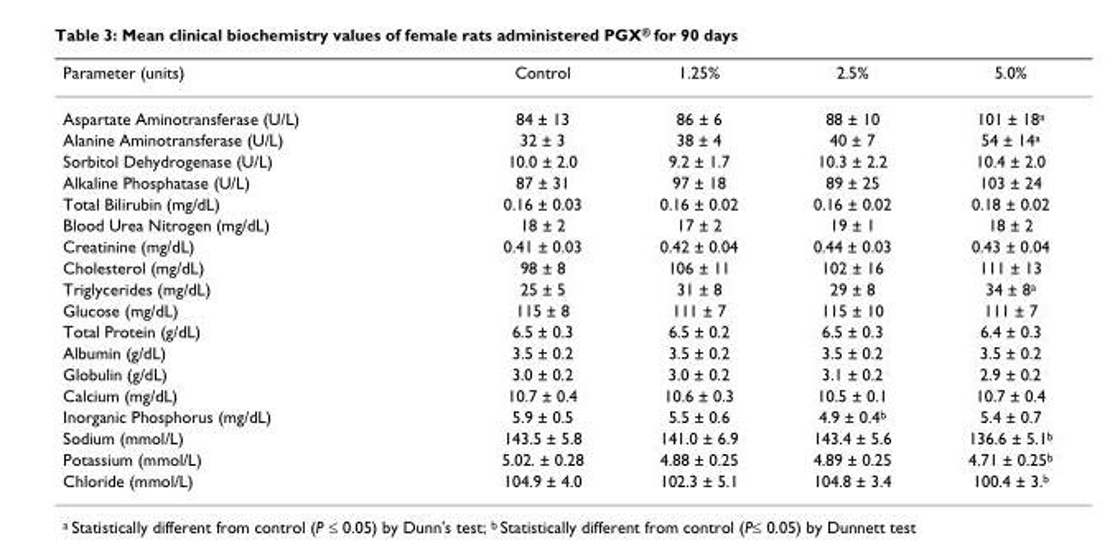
<table><thead><tr><td>Parameter (units)</td><td>Control</td><td>1.25%</td><td>2.5%</td><td>5.0%</td></tr></thead><tbody><tr><td>Aspartate Aminotransferase (U/L)</td><td>84 ± 13</td><td>86 ± 6</td><td>88 ± 10</td><td>101 ± 18<sup>a</sup></td></tr><tr><td>Alanine Aminotransferase (U/L)</td><td>32 ± 3</td><td>38 ± 4</td><td>40 ± 7</td><td>54 ± 14<sup>a</sup></td></tr><tr><td>Sorbitol Dehydrogenase (U/L)</td><td>10.0 ± 2.0</td><td>9.2 ± 1.7</td><td>10.3 ± 2.2</td><td>10.4 ± 2.0</td></tr><tr><td>Alkaline Phosphatase (U/L)</td><td>87 ± 31</td><td>97 ± 18</td><td>89 ± 25</td><td>103 ± 24</td></tr><tr><td>Total Bilirubin (mg/dL)</td><td>0.16 ± 0.03</td><td>0.16 ± 0.02</td><td>0.16 ± 0.02</td><td>0.18 ± 0.02</td></tr><tr><td>Blood Urea Nitrogen (mg/dL)</td><td>18 ± 2</td><td>17 ± 2</td><td>19 ± 1</td><td>18 ± 2</td></tr><tr><td>Creatinine (mg/dL)</td><td>0.41 ± 0.03</td><td>0.42 ± 0.04</td><td>0.44 ± 0.03</td><td>0.43 ± 0.04</td></tr><tr><td>Cholesterol (mg/dL)</td><td>98 ± 8</td><td>106 ± 11</td><td>102 ± 16</td><td>111 ± 13</td></tr><tr><td>Triglycerides (mg/dL)</td><td>25 ± 5</td><td>31 ± 8</td><td>29 ± 8</td><td>34 ± 8<sup>a</sup></td></tr><tr><td>Glucose (mg/dL)</td><td>115 ± 8</td><td>111 ± 7</td><td>115 ± 10</td><td>111 ± 7</td></tr><tr><td>Total Protein (g/dL)</td><td>6.5 ± 0.3</td><td>6.5 ± 0.2</td><td>6.5 ± 0.3</td><td>6.4 ± 0.3</td></tr><tr><td>Albumin (g/dL)</td><td>3.5 ± 0.2</td><td>3.5 ± 0.2</td><td>3.5 ± 0.2</td><td>3.5 ± 0.2</td></tr><tr><td>Globulin (g/dL)</td><td>3.0 ± 0.2</td><td>3.0 ± 0.2</td><td>3.1 ± 0.2</td><td>2.9 ± 0.2</td></tr><tr><td>Calcium (mg/dL)</td><td>10.7 ± 0.4</td><td>10.6 ± 0.3</td><td>10.5 ± 0.1</td><td>10.7 ± 0.4</td></tr><tr><td>Inorganic Phosphorus (mg/dL)</td><td>5.9 ± 0.5</td><td>5.5 ± 0.6</td><td>4.9 ± 0.4<sup>b</sup></td><td>5.4 ± 0.7</td></tr><tr><td>Sodium (mmol/L)</td><td>143.5 ± 5.8</td><td>141.0 ± 6.9</td><td>143.4 ± 5.6</td><td>136.6 ± 5.1<sup>b</sup></td></tr><tr><td>Potassium (mmol/L)</td><td>5.02. ± 0.28</td><td>4.88 ± 0.25</td><td>4.89 ± 0.25</td><td>4.71 ± 0.25<sup>b</sup></td></tr><tr><td>Chloride (mmol/L)</td><td>104.9 ± 4.0</td><td>102.3 ± 5.1</td><td>104.8 ± 3.4</td><td>100.4 ± 3.<sup>b</sup></td></tr></tbody></table>